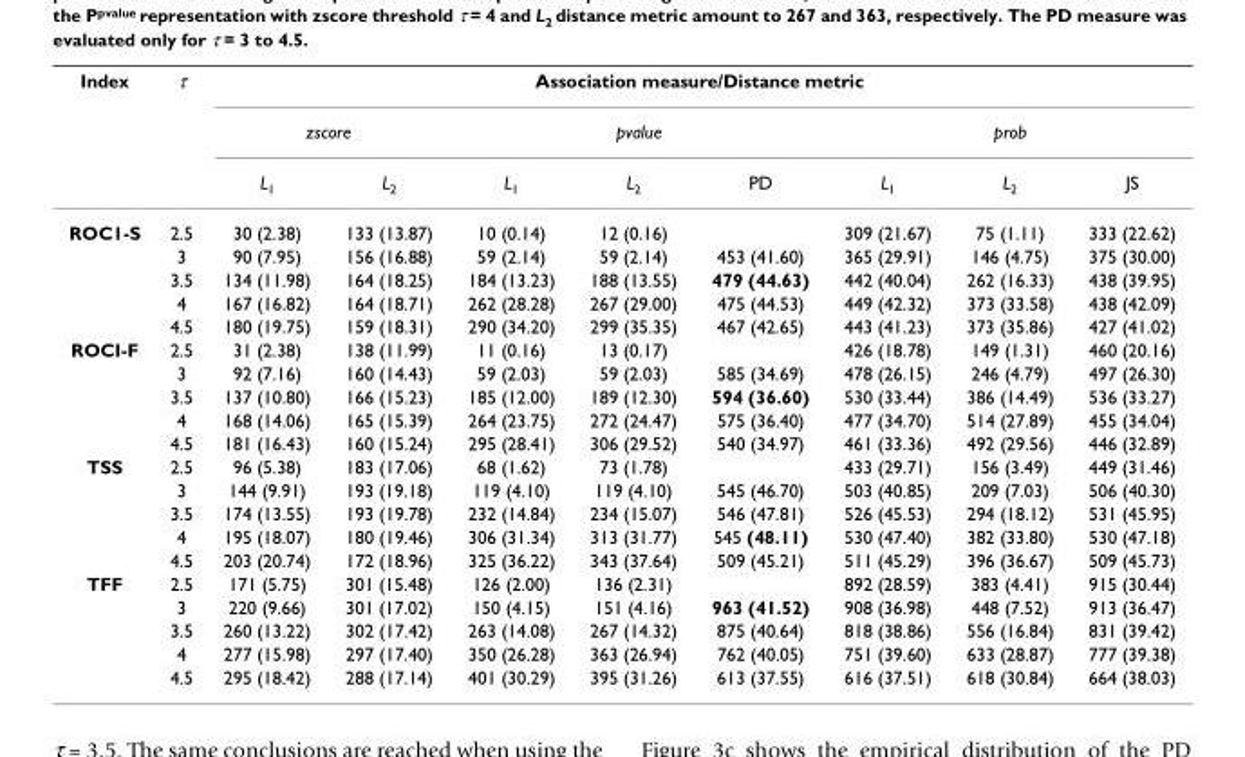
<table><thead><tr><td rowspan="3">Index</td><td rowspan="3">τ</td><td colspan="8">Association measure/Distance metric</td></tr><tr><td colspan="2">zscore</td><td colspan="3">pvalue</td><td colspan="3">prob</td></tr><tr><td>L<sub>1</sub></td><td>L<sub>2</sub></td><td>L<sub>1</sub></td><td>L<sub>2</sub></td><td>PD</td><td>L<sub>1</sub></td><td>L<sub>2</sub></td><td>JS</td></tr></thead><tbody><tr><td rowspan="5">ROC1-S</td><td>2.5</td><td>30 (2.38)</td><td>133 (13.87)</td><td>10 (0.14)</td><td>12 (0.16)</td><td></td><td>309 (21.67)</td><td>75 (1.11)</td><td>333 (22.62)</td></tr><tr><td>3</td><td>90 (7.95)</td><td>156 (16.88)</td><td>59 (2.14)</td><td>59 (2.14)</td><td>453 (41.60)</td><td>365 (29.91)</td><td>146 (4.75)</td><td>375 (30.00)</td></tr><tr><td>3.5</td><td>134 (11.98)</td><td>164 (18.25)</td><td>184 (13.23)</td><td>188 (13.55)</td><td>479 (44.63)</td><td>442 (40.04)</td><td>262 (16.33)</td><td>438 (39.95)</td></tr><tr><td>4</td><td>167 (16.82)</td><td>164 (18.71)</td><td>262 (28.28)</td><td>267 (29.00)</td><td>475 (44.53)</td><td>449 (42.32)</td><td>373 (33.58)</td><td>438 (42.09)</td></tr><tr><td>4.5</td><td>180 (19.75)</td><td>159 (18.31)</td><td>290 (34.20)</td><td>299 (35.35)</td><td>467 (42.65)</td><td>443 (41.23)</td><td>373 (35.86)</td><td>427 (41.02)</td></tr><tr><td rowspan="5">ROCI-F</td><td>2.5</td><td>31 (2.38)</td><td>138 (11.99)</td><td>11 (0.16)</td><td>13 (0.17)</td><td></td><td>426 (18.78)</td><td>149 (1.31)</td><td>460 (20.16)</td></tr><tr><td>3</td><td>92 (7.16)</td><td>160 (14.43)</td><td>59 (2.03)</td><td>59 (2.03)</td><td>585 (34.69)</td><td>478 (26.15)</td><td>246 (4.79)</td><td>497 (26.30)</td></tr><tr><td>3.5</td><td>137 (10.80)</td><td>166 (15.23)</td><td>185 (12.00)</td><td>189 (12.30)</td><td>594 (36.60)</td><td>530 (33.44)</td><td>386 (14.49)</td><td>536 (33.27)</td></tr><tr><td>4</td><td>168 (14.06)</td><td>165 (15.39)</td><td>264 (23.75)</td><td>272 (24.47)</td><td>575 (36.40)</td><td>477 (34.70)</td><td>514 (27.89)</td><td>455 (34.04)</td></tr><tr><td>4.5</td><td>181 (16.43)</td><td>160 (15.24)</td><td>295 (28.41)</td><td>306 (29.52)</td><td>540 (34.97)</td><td>461 (33.36)</td><td>492 (29.56)</td><td>446 (32.89)</td></tr><tr><td rowspan="5">TSS</td><td>2.5</td><td>96 (5.38)</td><td>183 (17.06)</td><td>68 (1.62)</td><td>73 (1.78)</td><td></td><td>433 (29.71)</td><td>156 (3.49)</td><td>449 (31.46)</td></tr><tr><td>3</td><td>144 (9.91)</td><td>193 (19.18)</td><td>119 (4.10)</td><td>119 (4.10)</td><td>545 (46.70)</td><td>503 (40.85)</td><td>209 (7.03)</td><td>506 (40.30)</td></tr><tr><td>3.5</td><td>174 (13.55)</td><td>193 (19.78)</td><td>232 (14.84)</td><td>234 (15.07)</td><td>546 (47.81)</td><td>526 (45.53)</td><td>294 (18.12)</td><td>531 (45.95)</td></tr><tr><td>4</td><td>195 (18.07)</td><td>180 (19.46)</td><td>306 (31.34)</td><td>313 (31.77)</td><td>545 (48.11)</td><td>530 (47.40)</td><td>382 (33.80)</td><td>530 (47.18)</td></tr><tr><td>4.5</td><td>203 (20.74)</td><td>172 (18.96)</td><td>325 (36.22)</td><td>343 (37.64)</td><td>509 (45.21)</td><td>511 (45.29)</td><td>396 (36.67)</td><td>509 (45.73)</td></tr><tr><td rowspan="5">TFF</td><td>2.5</td><td>171 (5.75)</td><td>301 (15.48)</td><td>126 (2.00)</td><td>136 (2.31)</td><td></td><td>892 (28.59)</td><td>383 (4.41)</td><td>915 (30.44)</td></tr><tr><td>3</td><td>220 (9.66)</td><td>301 (17.02)</td><td>150 (4.15)</td><td>151 (4.16)</td><td>963 (41.52)</td><td>908 (36.98)</td><td>448 (7.52)</td><td>913 (36.47)</td></tr><tr><td>3.5</td><td>260 (13.22)</td><td>302 (17.42)</td><td>263 (14.08)</td><td>267 (14.32)</td><td>875 (40.64)</td><td>818 (38.86)</td><td>556 (16.84)</td><td>831 (39.42)</td></tr><tr><td>4</td><td>277 (15.98)</td><td>297 (17.40)</td><td>350 (26.28)</td><td>363 (26.94)</td><td>762 (40.05)</td><td>751 (39.60)</td><td>633 (28.87)</td><td>777 (39.38)</td></tr><tr><td>4.5</td><td>295 (18.42)</td><td>288 (17.14)</td><td>401 (30.29)</td><td>395 (31.26)</td><td>613 (37.55)</td><td>616 (37.51)</td><td>618 (30.84)</td><td>664 (38.03)</td></tr></tbody></table>